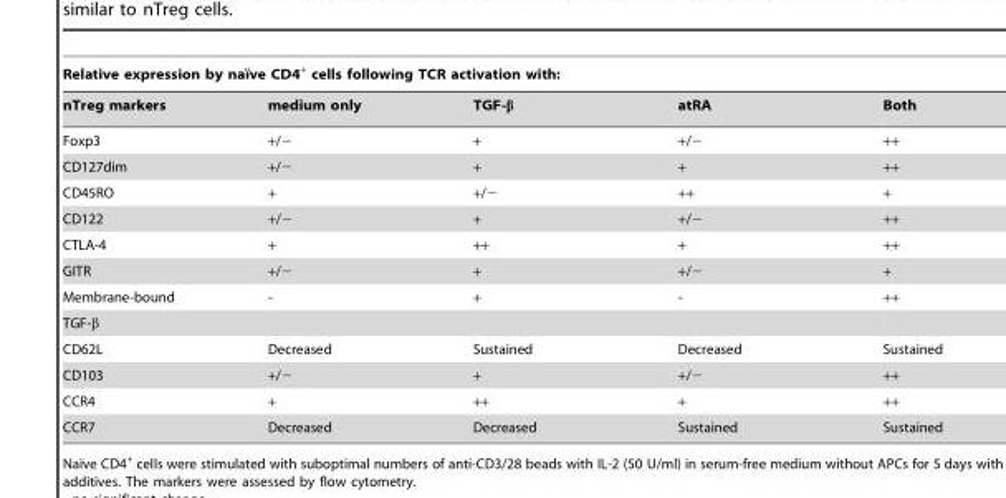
<table><thead><tr><td colspan="5">Relative expression by naı¨ve CD4+ cells following TCR activation with:</td></tr><tr><td>nTreg markers</td><td>medium only</td><td>TGF-β</td><td>atRA</td><td>Both</td></tr></thead><tbody><tr><td>Foxp3</td><td>+/−</td><td>+</td><td>+/−</td><td>++</td></tr><tr><td>CD127dim</td><td>+/−</td><td>+</td><td>+</td><td>++</td></tr><tr><td>CD45RO</td><td>+</td><td>+/−</td><td>++</td><td>+</td></tr><tr><td>CD122</td><td>+/−</td><td>+</td><td>+/−</td><td>++</td></tr><tr><td>CTLA-4</td><td>+</td><td>++</td><td>+</td><td>++</td></tr><tr><td>GITR</td><td>+/−</td><td>+</td><td>+/−</td><td>+</td></tr><tr><td>Membrane-bound</td><td>-</td><td>+</td><td>-</td><td>++</td></tr><tr><td colspan="5">TGF-β</td></tr><tr><td>CD62L</td><td>Decreased</td><td>Sustained</td><td>Decreased</td><td>Sustained</td></tr><tr><td>CD103</td><td>+/−</td><td>+</td><td>+/−</td><td>++</td></tr><tr><td>CCR4</td><td>+</td><td>++</td><td>+</td><td>++</td></tr><tr><td>CCR7</td><td>Decreased</td><td>Decreased</td><td>Sustained</td><td>Sustained</td></tr></tbody></table>